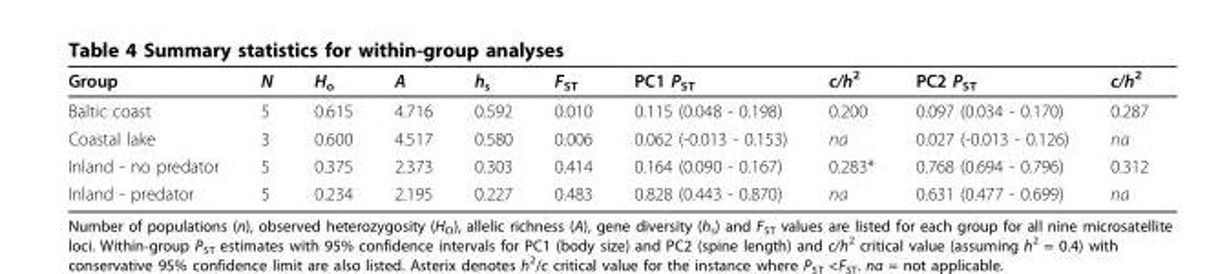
<table><thead><tr><td>Group</td><td>N</td><td>H<sub>o</sub></td><td>A</td><td>h<sub>s</sub></td><td>F<sub>ST</sub></td><td>PC1 P<sub>ST</sub></td><td>c/h<sup>2</sup></td><td>PC2 P<sub>ST</sub></td><td>c/h<sup>2</sup></td></tr></thead><tbody><tr><td>Baltic coast</td><td>5</td><td>0.615</td><td>4.716</td><td>0.592</td><td>0.010</td><td>0.115 (0.048 - 0.198)</td><td>0.200</td><td>0.097 (0.034 - 0.170)</td><td>0.287</td></tr><tr><td>Coastal lake</td><td>3</td><td>0.600</td><td>4.517</td><td>0.580</td><td>0.006</td><td>0.062 (-0.013 - 0.153)</td><td>na</td><td>0.027 (-0.013 - 0.126)</td><td>na</td></tr><tr><td>Inland - no predator</td><td>5</td><td>0.375</td><td>2.373</td><td>0.303</td><td>0.414</td><td>0.164 (0.090 - 0.167)</td><td>0.283*</td><td>0.768 (0.694 - 0.796)</td><td>0.312</td></tr><tr><td>Inland - predator</td><td>5</td><td>0.234</td><td>2.195</td><td>0.227</td><td>0.483</td><td>0.828 (0.443 - 0.870)</td><td>na</td><td>0.631 (0.477 - 0.699)</td><td>na</td></tr></tbody></table>